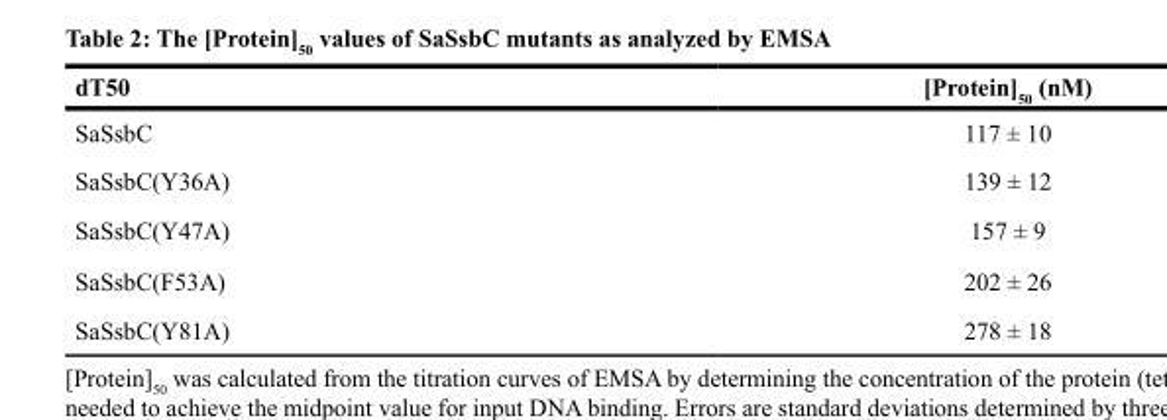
<table><thead><tr><td>dT50</td><td>[Protein]<sub>50</sub> (nM)</td></tr></thead><tbody><tr><td>SaSsbC</td><td>117 ± 10</td></tr><tr><td>SaSsbC(Y36A)</td><td>139 ± 12</td></tr><tr><td>SaSsbC(Y47A)</td><td>157 ± 9</td></tr><tr><td>SaSsbC(F53A)</td><td>202 ± 26</td></tr><tr><td>SaSsbC(Y81A)</td><td>278 ± 18</td></tr></tbody></table>